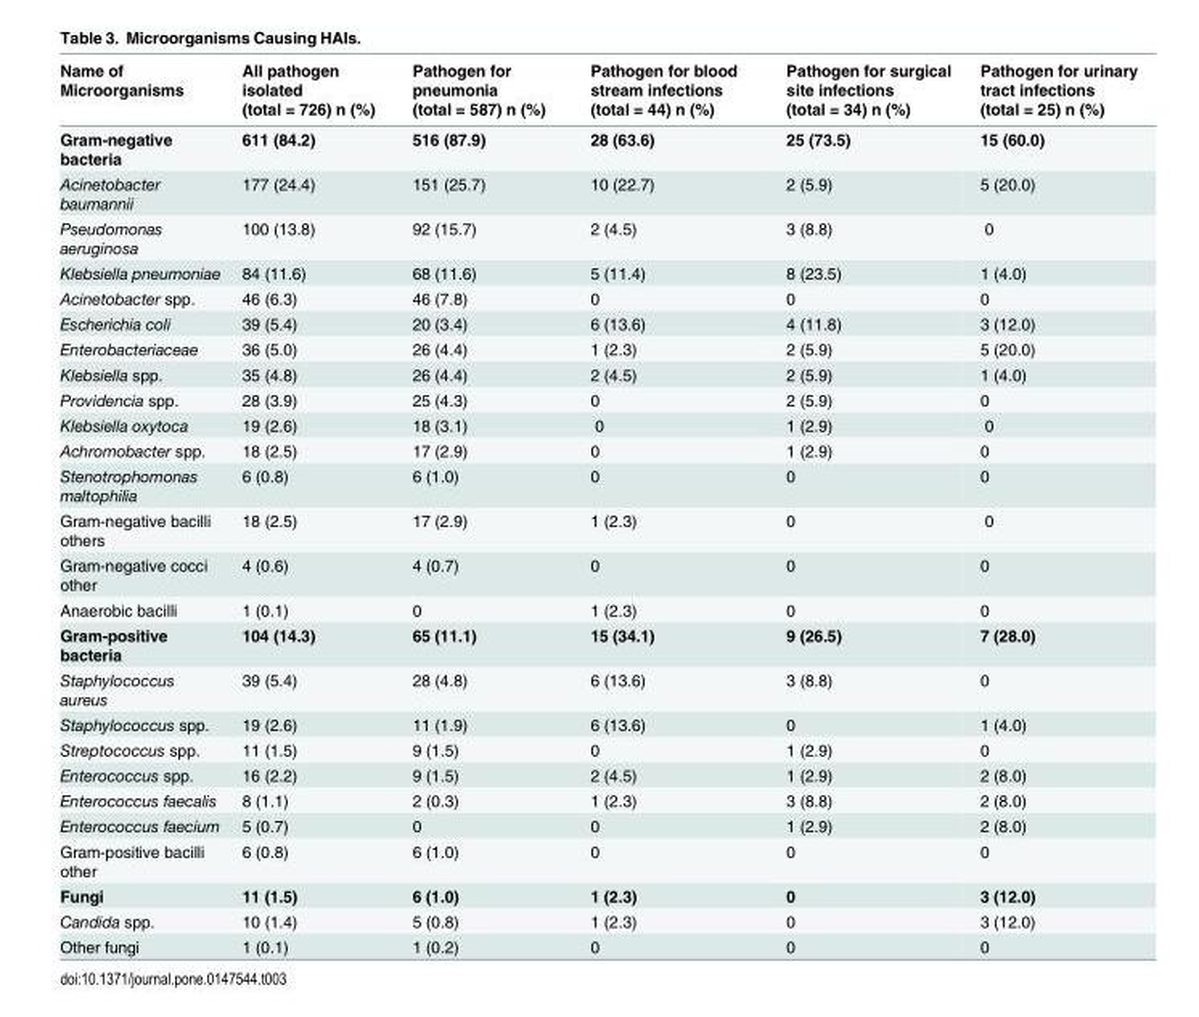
<table><thead><tr><td>Name of Microorganisms</td><td>All pathogen isolated (total = 726) n (%)</td><td>Pathogen for pneumonia (total = 587) n (%)</td><td>Pathogen for blood stream infections (total = 44) n (%)</td><td>Pathogen for surgical site infections (total = 34) n (%)</td><td>Pathogen for urinary tract infections (total = 25) n (%)</td></tr></thead><tbody><tr><td>Gram-negative bacteria</td><td>611 (84.2)</td><td>516 (87.9)</td><td>28 (63.6)</td><td>25 (73.5)</td><td>15 (60.0)</td></tr><tr><td>Acinetobacter baumannii</td><td>177 (24.4)</td><td>151 (25.7)</td><td>10 (22.7)</td><td>2 (5.9)</td><td>5 (20.0)</td></tr><tr><td>Pseudomonas aeruginosa</td><td>100 (13.8)</td><td>92 (15.7)</td><td>2 (4.5)</td><td>3 (8.8)</td><td>0</td></tr><tr><td>Klebsiella pneumoniae</td><td>84 (11.6)</td><td>68 (11.6)</td><td>5 (11.4)</td><td>8 (23.5)</td><td>1 (4.0)</td></tr><tr><td>Acinetobacter spp.</td><td>46 (6.3)</td><td>46 (7.8)</td><td>0</td><td>0</td><td>0</td></tr><tr><td>Escherichia coli</td><td>39 (5.4)</td><td>20 (3.4)</td><td>6 (13.6)</td><td>4 (11.8)</td><td>3 (12.0)</td></tr><tr><td>Enterobacteriaceae</td><td>36 (5.0)</td><td>26 (4.4)</td><td>1 (2.3)</td><td>2 (5.9)</td><td>5 (20.0)</td></tr><tr><td>Klebsiella spp.</td><td>35 (4.8)</td><td>26 (4.4)</td><td>2 (4.5)</td><td>2 (5.9)</td><td>1 (4.0)</td></tr><tr><td>Providencia spp.</td><td>28 (3.9)</td><td>25 (4.3)</td><td>0</td><td>2 (5.9)</td><td>0</td></tr><tr><td>Klebsiella oxytoca</td><td>19 (2.6)</td><td>18 (3.1)</td><td>0</td><td>1 (2.9)</td><td>0</td></tr><tr><td>Achromobacter spp.</td><td>18 (2.5)</td><td>17 (2.9)</td><td>0</td><td>1 (2.9)</td><td>0</td></tr><tr><td>Stenotrophomonas maltophilia</td><td>6 (0.8)</td><td>6 (1.0)</td><td>0</td><td>0</td><td>0</td></tr><tr><td>Gram-negative bacilli others</td><td>18 (2.5)</td><td>17 (2.9)</td><td>1 (2.3)</td><td>0</td><td>0</td></tr><tr><td>Gram-negative cocci other</td><td>4 (0.6)</td><td>4 (0.7)</td><td>0</td><td>0</td><td>0</td></tr><tr><td>Anaerobic bacilli</td><td>1 (0.1)</td><td>0</td><td>1 (2.3)</td><td>0</td><td>0</td></tr><tr><td>Gram-positive bacteria</td><td>104 (14.3)</td><td>65 (11.1)</td><td>15 (34.1)</td><td>9 (26.5)</td><td>7 (28.0)</td></tr><tr><td>Staphylococcus aureus</td><td>39 (5.4)</td><td>28 (4.8)</td><td>6 (13.6)</td><td>3 (8.8)</td><td>0</td></tr><tr><td>Staphylococcus spp.</td><td>19 (2.6)</td><td>11 (1.9)</td><td>6 (13.6)</td><td>0</td><td>1 (4.0)</td></tr><tr><td>Streptococcus spp.</td><td>11 (1.5)</td><td>9 (1.5)</td><td>0</td><td>1 (2.9)</td><td>0</td></tr><tr><td>Enterococcus spp.</td><td>16 (2.2)</td><td>9 (1.5)</td><td>2 (4.5)</td><td>1 (2.9)</td><td>2 (8.0)</td></tr><tr><td>Enterococcus faecalis</td><td>8 (1.1)</td><td>2 (0.3)</td><td>1 (2.3)</td><td>3 (8.8)</td><td>2 (8.0)</td></tr><tr><td>Enterococcus faecium</td><td>5 (0.7)</td><td>0</td><td>0</td><td>1 (2.9)</td><td>2 (8.0)</td></tr><tr><td>Gram-positive bacilli other</td><td>6 (0.8)</td><td>6 (1.0)</td><td>0</td><td>0</td><td>0</td></tr><tr><td>Fungi</td><td>11 (1.5)</td><td>6 (1.0)</td><td>1 (2.3)</td><td>0</td><td>3 (12.0)</td></tr><tr><td>Candida spp.</td><td>10 (1.4)</td><td>5 (0.8)</td><td>1 (2.3)</td><td>0</td><td>3 (12.0)</td></tr><tr><td>Other fungi</td><td>1 (0.1)</td><td>1 (0.2)</td><td>0</td><td>0</td><td>0</td></tr></tbody></table>